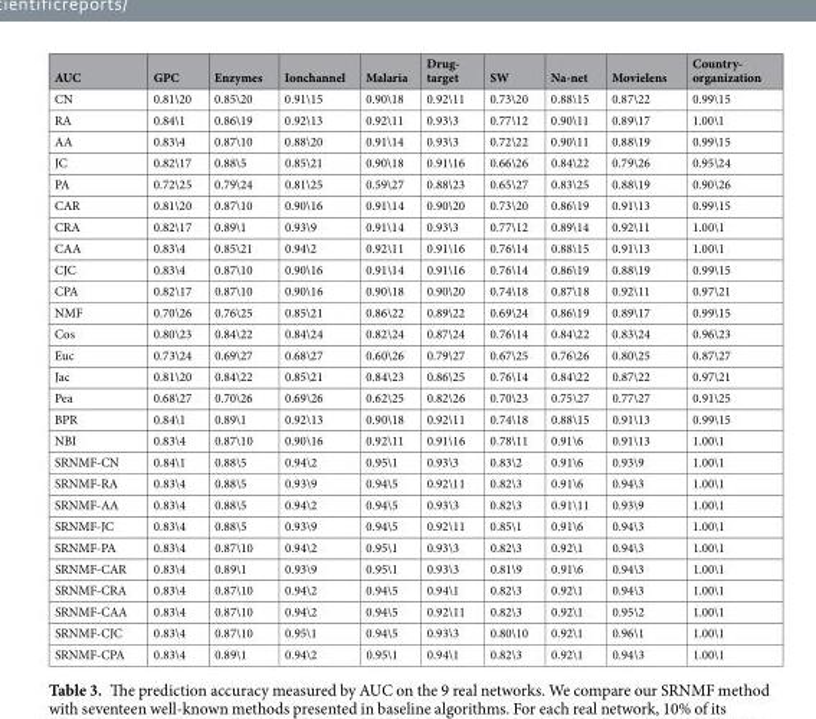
<table><thead><tr><td>AUC</td><td>GPC</td><td>Enzymes</td><td>Ionchannel</td><td>Malaria</td><td>Drug- target</td><td>SW</td><td>Na-net</td><td>Movielens</td><td>Country- organization</td></tr></thead><tbody><tr><td>CN</td><td>0.81\20</td><td>0.85\20</td><td>0.91\15</td><td>0.90\18</td><td>0.92\11</td><td>0.73\20</td><td>0.88\15</td><td>0.87\22</td><td>0.99\15</td></tr><tr><td>RA</td><td>0.84\1</td><td>0.86\19</td><td>0.92\13</td><td>0.92\11</td><td>0.93\3</td><td>0.77\12</td><td>0.90\11</td><td>0.89\17</td><td>1.00\1</td></tr><tr><td>AA</td><td>0.83\4</td><td>0.87\10</td><td>0.88\20</td><td>0.91\14</td><td>0.93\3</td><td>0.72\22</td><td>0.90\11</td><td>0.88\19</td><td>0.99\15</td></tr><tr><td>JC</td><td>0.82\17</td><td>0.88\5</td><td>0.85\21</td><td>0.90\18</td><td>0.91\16</td><td>0.66\26</td><td>0.84\22</td><td>0.79\26</td><td>0.95\24</td></tr><tr><td>PA</td><td>0.72\25</td><td>0.79\24</td><td>0.81\25</td><td>0.59\27</td><td>0.88\23</td><td>0.65\27</td><td>0.83\25</td><td>0.88\19</td><td>0.90\26</td></tr><tr><td>CAR</td><td>0.81\20</td><td>0.87\10</td><td>0.90\16</td><td>0.91\14</td><td>0.90\20</td><td>0.73\20</td><td>0.86\19</td><td>0.91\13</td><td>0.99\15</td></tr><tr><td>CRA</td><td>0.82\17</td><td>0.89\1</td><td>0.93\9</td><td>0.91\14</td><td>0.93\3</td><td>0.77\12</td><td>0.89\14</td><td>0.92\11</td><td>1.00\1</td></tr><tr><td>CAA</td><td>0.83\4</td><td>0.85\21</td><td>0.94\2</td><td>0.92\11</td><td>0.91\16</td><td>0.76\14</td><td>0.88\15</td><td>0.91\13</td><td>1.00\1</td></tr><tr><td>CJC</td><td>0.83\4</td><td>0.87\10</td><td>0.90\16</td><td>0.91\14</td><td>0.91\16</td><td>0.76\14</td><td>0.86\19</td><td>0.88\19</td><td>0.99\15</td></tr><tr><td>CPA</td><td>0.82\17</td><td>0.87\10</td><td>0.90\16</td><td>0.90\18</td><td>0.90\20</td><td>0.74\18</td><td>0.87\18</td><td>0.92\11</td><td>0.97\21</td></tr><tr><td>NMF</td><td>0.70\26</td><td>0.76\25</td><td>0.85\21</td><td>0.86\22</td><td>0.89\22</td><td>0.69\24</td><td>0.86\19</td><td>0.89\17</td><td>0.99\15</td></tr><tr><td>Cos</td><td>0.80\23</td><td>0.84\22</td><td>0.84\24</td><td>0.82\24</td><td>0.87\24</td><td>0.76\14</td><td>0.84\22</td><td>0.83\24</td><td>0.96\23</td></tr><tr><td>Euc</td><td>0.73\24</td><td>0.69\27</td><td>0.68\27</td><td>0.60\26</td><td>0.79\27</td><td>0.67\25</td><td>0.76\26</td><td>0.80\25</td><td>0.87\27</td></tr><tr><td>Jac</td><td>0.81\20</td><td>0.84\22</td><td>0.85\21</td><td>0.84\23</td><td>0.86\25</td><td>0.76\14</td><td>0.84\22</td><td>0.87\22</td><td>0.97\21</td></tr><tr><td>Pea</td><td>0.68\27</td><td>0.70\26</td><td>0.69\26</td><td>0.62\25</td><td>0.82\26</td><td>0.70\23</td><td>0.75\27</td><td>0.77\27</td><td>0.91\25</td></tr><tr><td>BPR</td><td>0.84\1</td><td>0.89\1</td><td>0.92\13</td><td>0.90\18</td><td>0.92\11</td><td>0.74\18</td><td>0.88\15</td><td>0.91\13</td><td>0.99\15</td></tr><tr><td>NBI</td><td>0.83\4</td><td>0.87\10</td><td>0.90\16</td><td>0.92\11</td><td>0.91\16</td><td>0.78\11</td><td>0.91\6</td><td>0.91\13</td><td>1.00\1</td></tr><tr><td>SRNMF-CN</td><td>0.84\1</td><td>0.88\5</td><td>0.94\2</td><td>0.95\1</td><td>0.93\3</td><td>0.83\2</td><td>0.91\6</td><td>0.93\9</td><td>1.00\1</td></tr><tr><td>SRNMF-RA</td><td>0.83\4</td><td>0.88\5</td><td>0.93\9</td><td>0.94\5</td><td>0.92\11</td><td>0.82\3</td><td>0.91\6</td><td>0.94\3</td><td>1.00\1</td></tr><tr><td>SRNMF-AA</td><td>0.83\4</td><td>0.88\5</td><td>0.94\2</td><td>0.94\5</td><td>0.93\3</td><td>0.82\3</td><td>0.91\11</td><td>0.93\9</td><td>1.00\1</td></tr><tr><td>SRNMF-JC</td><td>0.83\4</td><td>0.88\5</td><td>0.93\9</td><td>0.94\5</td><td>0.92\11</td><td>0.85\1</td><td>0.91\6</td><td>0.94\3</td><td>1.00\1</td></tr><tr><td>SRNMF-PA</td><td>0.83\4</td><td>0.87\10</td><td>0.94\2</td><td>0.95\1</td><td>0.93\3</td><td>0.82\3</td><td>0.92\1</td><td>0.94\3</td><td>1.00\1</td></tr><tr><td>SRNMF-CAR</td><td>0.83\4</td><td>0.89\1</td><td>0.93\9</td><td>0.95\1</td><td>0.93\3</td><td>0.81\9</td><td>0.91\6</td><td>0.94\3</td><td>1.00\1</td></tr><tr><td>SRNMF-CRA</td><td>0.83\4</td><td>0.87\10</td><td>0.94\2</td><td>0.94\5</td><td>0.94\1</td><td>0.82\3</td><td>0.92\1</td><td>0.94\3</td><td>1.00\1</td></tr><tr><td>SRNMF-CAA</td><td>0.83\4</td><td>0.87\10</td><td>0.94\2</td><td>0.94\5</td><td>0.92\11</td><td>0.82\3</td><td>0.92\1</td><td>0.95\2</td><td>1.00\1</td></tr><tr><td>SRNMF-CJC</td><td>0.83\4</td><td>0.87\10</td><td>0.95\1</td><td>0.94\5</td><td>0.93\3</td><td>0.80\10</td><td>0.92\1</td><td>0.96\1</td><td>1.00\1</td></tr><tr><td>SRNMF-CPA</td><td>0.83\4</td><td>0.89\1</td><td>0.94\2</td><td>0.95\1</td><td>0.94\1</td><td>0.82\3</td><td>0.92\1</td><td>0.94\3</td><td>1.00\1</td></tr></tbody></table>